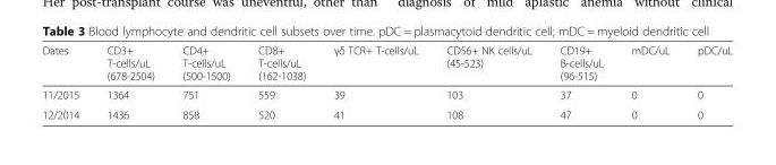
<table><thead><tr><td>Dates</td><td>CD3+ T-cells/uL (678-2504)</td><td>CD4+ T-cells/uL (500-1500)</td><td>CD8+ T-cells/uL (162-1038)</td><td>γδ TCR+ T-cells/uL</td><td>CD56+ NK cells/uL (45-523)</td><td>CD19+ B-cells/uL (96-515)</td><td>mDC/uL</td><td>pDC/uL</td></tr></thead><tbody><tr><td>11/2015</td><td>1364</td><td>751</td><td>559</td><td>39</td><td>103</td><td>37</td><td>0</td><td>0</td></tr><tr><td>12/2014</td><td>1436</td><td>858</td><td>520</td><td>41</td><td>108</td><td>47</td><td>0</td><td>0</td></tr></tbody></table>